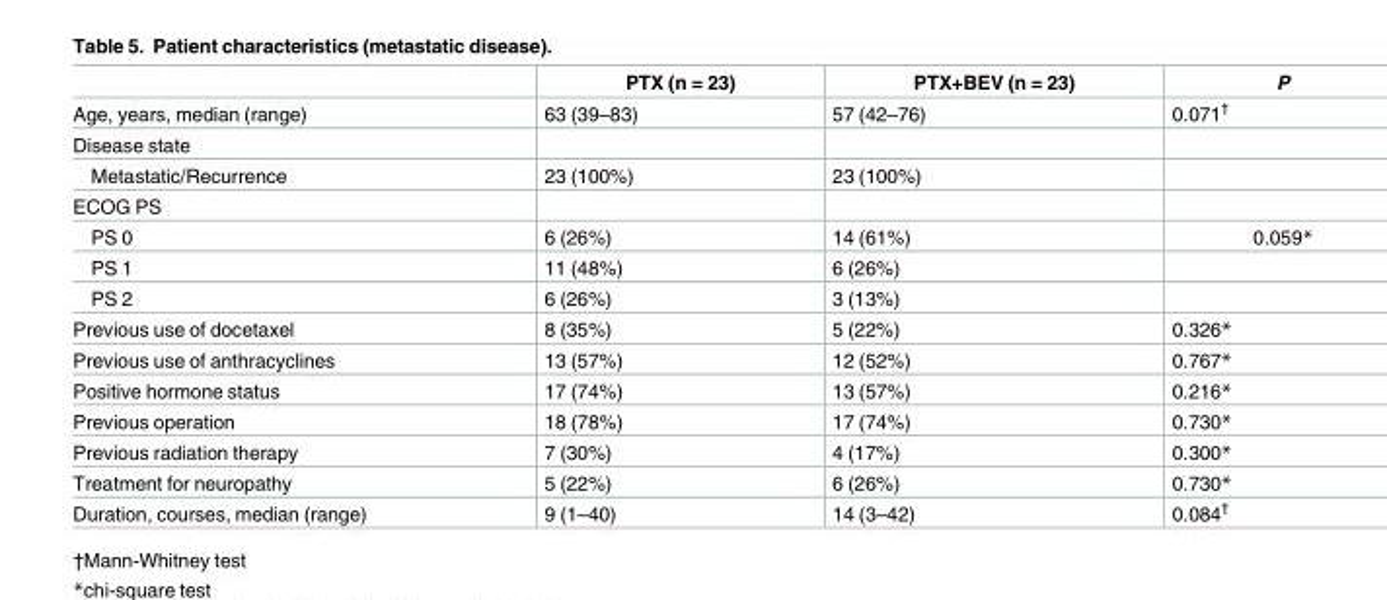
<table><thead><tr><td></td><td>PTX (n = 23)</td><td>PTX+BEV (n = 23)</td><td>P</td></tr></thead><tbody><tr><td>Age, years, median (range)</td><td>63 (39–83)</td><td>57 (42–76)</td><td>0.071<sup>†</sup></td></tr><tr><td colspan="4">Disease state</td></tr><tr><td>Metastatic/Recurrence</td><td>23 (100%)</td><td>23 (100%)</td><td></td></tr><tr><td colspan="4">ECOG PS</td></tr><tr><td>PS 0</td><td>6 (26%)</td><td>14 (61%)</td><td>0.059*</td></tr><tr><td>PS 1</td><td>11 (48%)</td><td>6 (26%)</td><td></td></tr><tr><td>PS 2</td><td>6 (26%)</td><td>3 (13%)</td><td></td></tr><tr><td>Previous use of docetaxel</td><td>8 (35%)</td><td>5 (22%)</td><td>0.326*</td></tr><tr><td>Previous use of anthracyclines</td><td>13 (57%)</td><td>12 (52%)</td><td>0.767*</td></tr><tr><td>Positive hormone status</td><td>17 (74%)</td><td>13 (57%)</td><td>0.216*</td></tr><tr><td>Previous operation</td><td>18 (78%)</td><td>17 (74%)</td><td>0.730*</td></tr><tr><td>Previous radiation therapy</td><td>7 (30%)</td><td>4 (17%)</td><td>0.300*</td></tr><tr><td>Treatment for neuropathy</td><td>5 (22%)</td><td>6 (26%)</td><td>0.730*</td></tr><tr><td>Duration, courses, median (range)</td><td>9 (1–40)</td><td>14 (3–42)</td><td>0.084<sup>†</sup></td></tr></tbody></table>